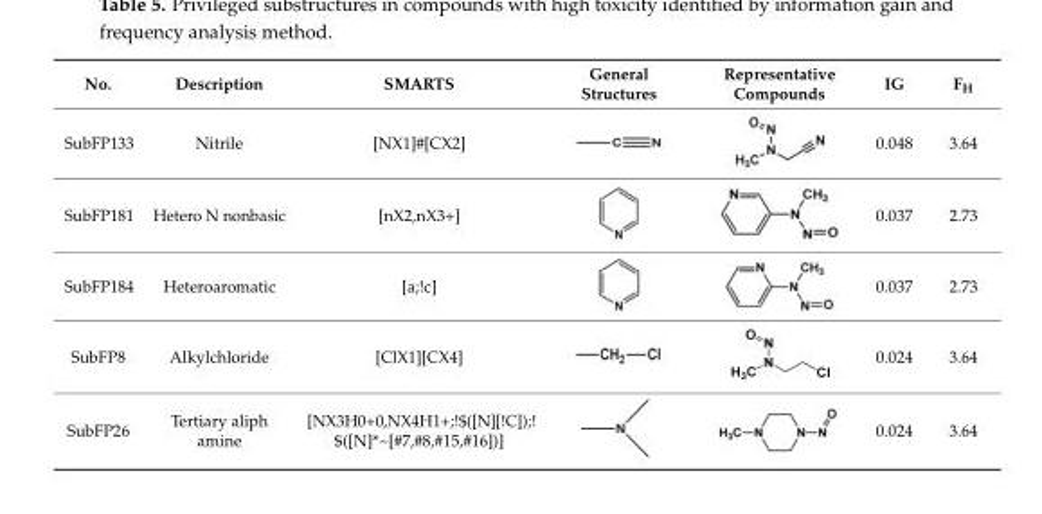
<table><thead><tr><td>No.</td><td>Description</td><td>SMARTS</td><td>General Structures</td><td>Representative Compounds</td><td>IG</td><td>F<sub>H</sub></td></tr></thead><tbody><tr><td>SubFP133</td><td>Nitrile</td><td>[NX1]#[CX2]</td><td></td><td></td><td>0.048</td><td>3.64</td></tr><tr><td>SubFP181</td><td>Hetero N nonbasic</td><td>[nX2,nX3+]</td><td></td><td></td><td>0.037</td><td>2.73</td></tr><tr><td>SubFP184</td><td>Heteroaromatic</td><td>[a;!c]</td><td></td><td></td><td>0.037</td><td>2.73</td></tr><tr><td>SubFP8</td><td>Alkylchloride</td><td>[ClX1][CX4]</td><td></td><td></td><td>0.024</td><td>3.64</td></tr><tr><td>SubFP26</td><td>Tertiary aliph amine</td><td>[NX3H0+0,NX4H1+;!$([N][!C]);! $([N]*~[#7,#8,#15,#16])]</td><td></td><td></td><td>0.024</td><td>3.64</td></tr></tbody></table>